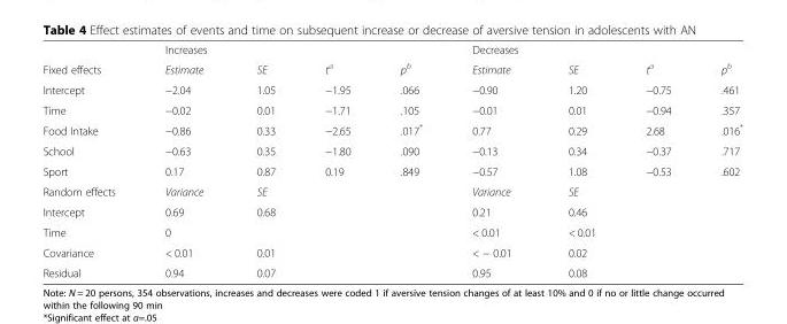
<table><thead><tr><td></td><td>Increases</td><td></td><td></td><td></td><td>Decreases</td><td></td><td></td><td></td></tr></thead><tbody><tr><td>Fixed effects</td><td>Estimate</td><td>SE</td><td>t<sup>a</sup></td><td>p<sup>b</sup></td><td>Estimate</td><td>SE</td><td>t<sup>a</sup></td><td>p<sup>b</sup></td></tr><tr><td>Intercept</td><td>−2.04</td><td>1.05</td><td>−1.95</td><td>.066</td><td>−0.90</td><td>1.20</td><td>−0.75</td><td>.461</td></tr><tr><td>Time</td><td>−0.02</td><td>0.01</td><td>−1.71</td><td>.105</td><td>−0.01</td><td>0.01</td><td>−0.94</td><td>.357</td></tr><tr><td>Food Intake</td><td>−0.86</td><td>0.33</td><td>−2.65</td><td>.017*</td><td>0.77</td><td>0.29</td><td>2.68</td><td>.016*</td></tr><tr><td>School</td><td>−0.63</td><td>0.35</td><td>−1.80</td><td>.090</td><td>−0.13</td><td>0.34</td><td>−0.37</td><td>.717</td></tr><tr><td>Sport</td><td>0.17</td><td>0.87</td><td>0.19</td><td>.849</td><td>−0.57</td><td>1.08</td><td>−0.53</td><td>.602</td></tr><tr><td>Random effects</td><td>Variance</td><td>SE</td><td></td><td></td><td>Variance</td><td>SE</td><td></td><td></td></tr><tr><td>Intercept</td><td>0.69</td><td>0.68</td><td></td><td></td><td>0.21</td><td>0.46</td><td></td><td></td></tr><tr><td>Time</td><td>0</td><td></td><td></td><td></td><td>&lt; 0.01</td><td>&lt; 0.01</td><td></td><td></td></tr><tr><td>Covariance</td><td>&lt; 0.01</td><td>0.01</td><td></td><td></td><td>&lt; − 0.01</td><td>0.02</td><td></td><td></td></tr><tr><td>Residual</td><td>0.94</td><td>0.07</td><td></td><td></td><td>0.95</td><td>0.08</td><td></td><td></td></tr></tbody></table>